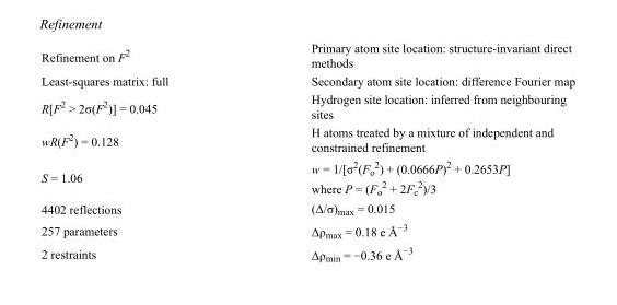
<table><tbody><tr><td>Refinement on F<sup>2</sup></td><td>Primary atom site location: structure-invariant direct methods</td></tr><tr><td>Least-squares matrix: full</td><td>Secondary atom site location: difference Fourier map</td></tr><tr><td>R[F<sup>2</sup> &gt; 2σ(F<sup>2</sup>)] = 0.045</td><td>Hydrogen site location: inferred from neighbouring sites</td></tr><tr><td>wR(F<sup>2</sup>) = 0.128</td><td>H atoms treated by a mixture of independent and constrained refinement</td></tr><tr><td>S = 1.06</td><td>w = 1/[σ<sup>2</sup>(F<sub>o</sub> <sup>2</sup>) + (0.0666P)<sup>2</sup> + 0.2653P] where P = (F<sub>o</sub> <sup>2</sup> + 2F<sub>c</sub> <sup>2</sup>)/3</td></tr><tr><td>4402 reflections</td><td>(Δ/σ)<sub>max</sub> = 0.015</td></tr><tr><td>257 parameters</td><td>Δρ<sub>max</sub> = 0.18 e Å<sup>−3</sup></td></tr><tr><td>2 restraints</td><td>Δρ<sub>min</sub> = −0.36 e Å<sup>−3</sup></td></tr></tbody></table>